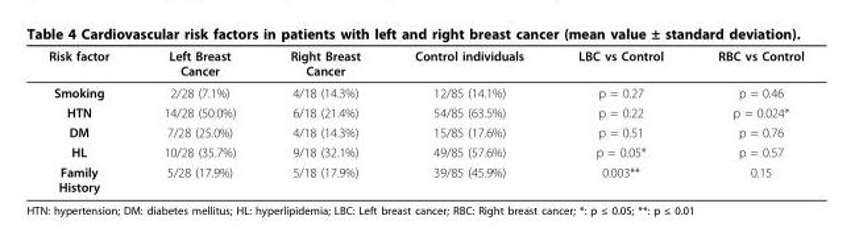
<table><thead><tr><td>Risk factor</td><td>Left Breast Cancer</td><td>Right Breast Cancer</td><td>Control individuals</td><td>LBC vs Control</td><td>RBC vs Control</td></tr></thead><tbody><tr><td>Smoking</td><td>2/28 (7.1%)</td><td>4/18 (14.3%)</td><td>12/85 (14.1%)</td><td>p = 0.27</td><td>p = 0.46</td></tr><tr><td>HTN</td><td>14/28 (50.0%)</td><td>6/18 (21.4%)</td><td>54/85 (63.5%)</td><td>p = 0.22</td><td>p = 0.024*</td></tr><tr><td>DM</td><td>7/28 (25.0%)</td><td>4/18 (14.3%)</td><td>15/85 (17.6%)</td><td>p = 0.51</td><td>p = 0.76</td></tr><tr><td>HL</td><td>10/28 (35.7%)</td><td>9/18 (32.1%)</td><td>49/85 (57.6%)</td><td>p = 0.05*</td><td>p = 0.57</td></tr><tr><td>Family History</td><td>5/28 (17.9%)</td><td>5/18 (17.9%)</td><td>39/85 (45.9%)</td><td>0.003**</td><td>0.15</td></tr></tbody></table>